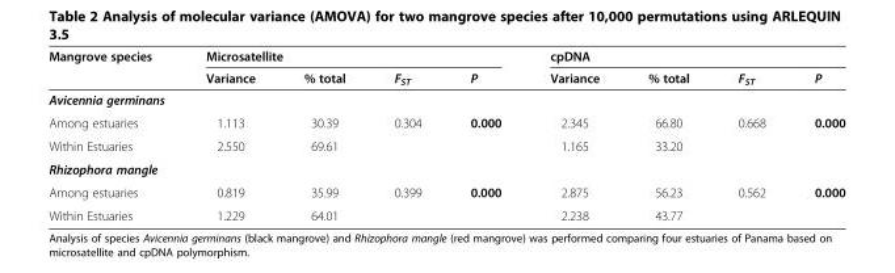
<table><thead><tr><td rowspan="2">Mangrove species</td><td rowspan="2">Microsatellite Variance</td><td rowspan="2">% total</td><td rowspan="2">F<sub>ST</sub></td><td rowspan="2">P</td><td rowspan="2">cpDNA Variance</td><td rowspan="2">% total</td><td rowspan="2">F<sub>ST</sub></td><td rowspan="2">P</td></tr><tr></tr></thead><tbody><tr><td colspan="9">Avicennia germinans</td></tr><tr><td>Among estuaries</td><td>1.113</td><td>30.39</td><td>0.304</td><td>0.000</td><td>2.345</td><td>66.80</td><td>0.668</td><td>0.000</td></tr><tr><td>Within Estuaries</td><td>2.550</td><td>69.61</td><td></td><td></td><td>1.165</td><td>33.20</td><td></td><td></td></tr><tr><td colspan="9">Rhizophora mangle</td></tr><tr><td>Among estuaries</td><td>0.819</td><td>35.99</td><td>0.399</td><td>0.000</td><td>2.875</td><td>56.23</td><td>0.562</td><td>0.000</td></tr><tr><td>Within Estuaries</td><td>1.229</td><td>64.01</td><td></td><td></td><td>2.238</td><td>43.77</td><td></td><td></td></tr></tbody></table>